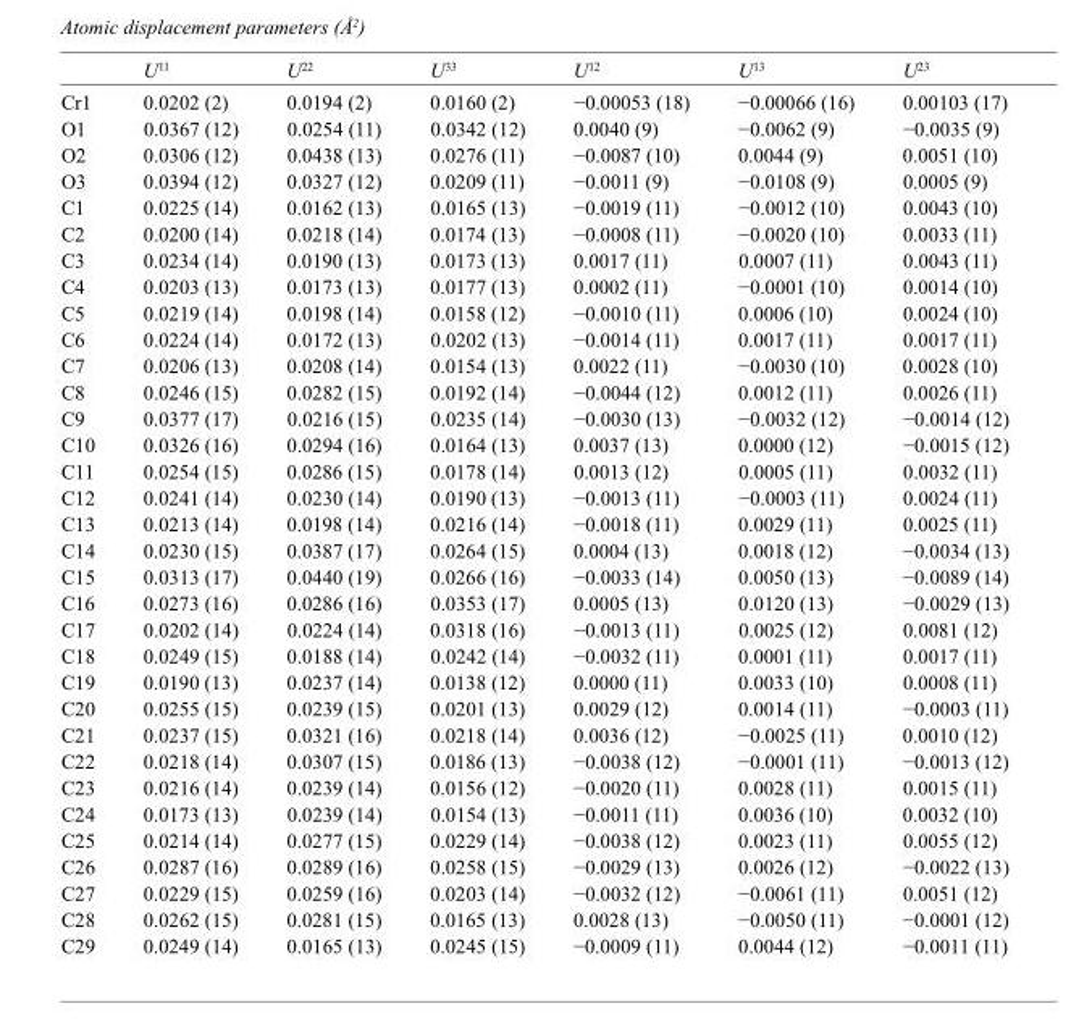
<table><thead><tr><td></td><td>U<sup>11</sup></td><td>U<sup>22</sup></td><td>U<sup>33</sup></td><td>U<sup>12</sup></td><td>U<sup>13</sup></td><td>U<sup>23</sup></td></tr></thead><tbody><tr><td>Cr1</td><td>0.0202 (2)</td><td>0.0194 (2)</td><td>0.0160 (2)</td><td>−0.00053 (18)</td><td>−0.00066 (16)</td><td>0.00103 (17)</td></tr><tr><td>O1</td><td>0.0367 (12)</td><td>0.0254 (11)</td><td>0.0342 (12)</td><td>0.0040 (9)</td><td>−0.0062 (9)</td><td>−0.0035 (9)</td></tr><tr><td>O2</td><td>0.0306 (12)</td><td>0.0438 (13)</td><td>0.0276 (11)</td><td>−0.0087 (10)</td><td>0.0044 (9)</td><td>0.0051 (10)</td></tr><tr><td>O3</td><td>0.0394 (12)</td><td>0.0327 (12)</td><td>0.0209 (11)</td><td>−0.0011 (9)</td><td>−0.0108 (9)</td><td>0.0005 (9)</td></tr><tr><td>C1</td><td>0.0225 (14)</td><td>0.0162 (13)</td><td>0.0165 (13)</td><td>−0.0019 (11)</td><td>−0.0012 (10)</td><td>0.0043 (10)</td></tr><tr><td>C2</td><td>0.0200 (14)</td><td>0.0218 (14)</td><td>0.0174 (13)</td><td>−0.0008 (11)</td><td>−0.0020 (10)</td><td>0.0033 (11)</td></tr><tr><td>C3</td><td>0.0234 (14)</td><td>0.0190 (13)</td><td>0.0173 (13)</td><td>0.0017 (11)</td><td>0.0007 (11)</td><td>0.0043 (11)</td></tr><tr><td>C4</td><td>0.0203 (13)</td><td>0.0173 (13)</td><td>0.0177 (13)</td><td>0.0002 (11)</td><td>−0.0001 (10)</td><td>0.0014 (10)</td></tr><tr><td>C5</td><td>0.0219 (14)</td><td>0.0198 (14)</td><td>0.0158 (12)</td><td>−0.0010 (11)</td><td>0.0006 (10)</td><td>0.0024 (10)</td></tr><tr><td>C6</td><td>0.0224 (14)</td><td>0.0172 (13)</td><td>0.0202 (13)</td><td>−0.0014 (11)</td><td>0.0017 (11)</td><td>0.0017 (11)</td></tr><tr><td>C7</td><td>0.0206 (13)</td><td>0.0208 (14)</td><td>0.0154 (13)</td><td>0.0022 (11)</td><td>−0.0030 (10)</td><td>0.0028 (10)</td></tr><tr><td>C8</td><td>0.0246 (15)</td><td>0.0282 (15)</td><td>0.0192 (14)</td><td>−0.0044 (12)</td><td>0.0012 (11)</td><td>0.0026 (11)</td></tr><tr><td>C9</td><td>0.0377 (17)</td><td>0.0216 (15)</td><td>0.0235 (14)</td><td>−0.0030 (13)</td><td>−0.0032 (12)</td><td>−0.0014 (12)</td></tr><tr><td>C10</td><td>0.0326 (16)</td><td>0.0294 (16)</td><td>0.0164 (13)</td><td>0.0037 (13)</td><td>0.0000 (12)</td><td>−0.0015 (12)</td></tr><tr><td>C11</td><td>0.0254 (15)</td><td>0.0286 (15)</td><td>0.0178 (14)</td><td>0.0013 (12)</td><td>0.0005 (11)</td><td>0.0032 (11)</td></tr><tr><td>C12</td><td>0.0241 (14)</td><td>0.0230 (14)</td><td>0.0190 (13)</td><td>−0.0013 (11)</td><td>−0.0003 (11)</td><td>0.0024 (11)</td></tr><tr><td>C13</td><td>0.0213 (14)</td><td>0.0198 (14)</td><td>0.0216 (14)</td><td>−0.0018 (11)</td><td>0.0029 (11)</td><td>0.0025 (11)</td></tr><tr><td>C14</td><td>0.0230 (15)</td><td>0.0387 (17)</td><td>0.0264 (15)</td><td>0.0004 (13)</td><td>0.0018 (12)</td><td>−0.0034 (13)</td></tr><tr><td>C15</td><td>0.0313 (17)</td><td>0.0440 (19)</td><td>0.0266 (16)</td><td>−0.0033 (14)</td><td>0.0050 (13)</td><td>−0.0089 (14)</td></tr><tr><td>C16</td><td>0.0273 (16)</td><td>0.0286 (16)</td><td>0.0353 (17)</td><td>0.0005 (13)</td><td>0.0120 (13)</td><td>−0.0029 (13)</td></tr><tr><td>C17</td><td>0.0202 (14)</td><td>0.0224 (14)</td><td>0.0318 (16)</td><td>−0.0013 (11)</td><td>0.0025 (12)</td><td>0.0081 (12)</td></tr><tr><td>C18</td><td>0.0249 (15)</td><td>0.0188 (14)</td><td>0.0242 (14)</td><td>−0.0032 (11)</td><td>0.0001 (11)</td><td>0.0017 (11)</td></tr><tr><td>C19</td><td>0.0190 (13)</td><td>0.0237 (14)</td><td>0.0138 (12)</td><td>0.0000 (11)</td><td>0.0033 (10)</td><td>0.0008 (11)</td></tr><tr><td>C20</td><td>0.0255 (15)</td><td>0.0239 (15)</td><td>0.0201 (13)</td><td>0.0029 (12)</td><td>0.0014 (11)</td><td>−0.0003 (11)</td></tr><tr><td>C21</td><td>0.0237 (15)</td><td>0.0321 (16)</td><td>0.0218 (14)</td><td>0.0036 (12)</td><td>−0.0025 (11)</td><td>0.0010 (12)</td></tr><tr><td>C22</td><td>0.0218 (14)</td><td>0.0307 (15)</td><td>0.0186 (13)</td><td>−0.0038 (12)</td><td>−0.0001 (11)</td><td>−0.0013 (12)</td></tr><tr><td>C23</td><td>0.0216 (14)</td><td>0.0239 (14)</td><td>0.0156 (12)</td><td>−0.0020 (11)</td><td>0.0028 (11)</td><td>0.0015 (11)</td></tr><tr><td>C24</td><td>0.0173 (13)</td><td>0.0239 (14)</td><td>0.0154 (13)</td><td>−0.0011 (11)</td><td>0.0036 (10)</td><td>0.0032 (10)</td></tr><tr><td>C25</td><td>0.0214 (14)</td><td>0.0277 (15)</td><td>0.0229 (14)</td><td>−0.0038 (12)</td><td>0.0023 (11)</td><td>0.0055 (12)</td></tr><tr><td>C26</td><td>0.0287 (16)</td><td>0.0289 (16)</td><td>0.0258 (15)</td><td>−0.0029 (13)</td><td>0.0026 (12)</td><td>−0.0022 (13)</td></tr><tr><td>C27</td><td>0.0229 (15)</td><td>0.0259 (16)</td><td>0.0203 (14)</td><td>−0.0032 (12)</td><td>−0.0061 (11)</td><td>0.0051 (12)</td></tr><tr><td>C28</td><td>0.0262 (15)</td><td>0.0281 (15)</td><td>0.0165 (13)</td><td>0.0028 (13)</td><td>−0.0050 (11)</td><td>−0.0001 (12)</td></tr><tr><td>C29</td><td>0.0249 (14)</td><td>0.0165 (13)</td><td>0.0245 (15)</td><td>−0.0009 (11)</td><td>0.0044 (12)</td><td>−0.0011 (11)</td></tr></tbody></table>